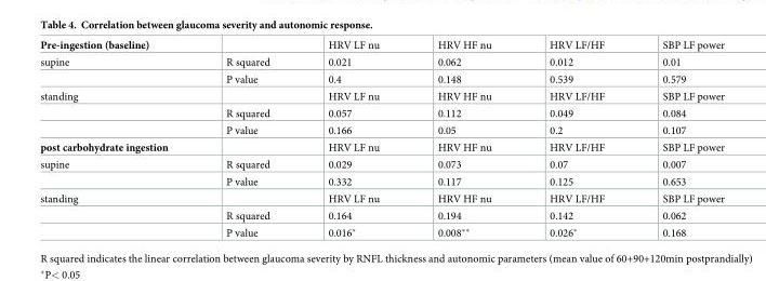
<table><tbody><tr><td>Pre-ingestion (baseline)</td><td></td><td>HRV LF nu</td><td>HRV HF nu</td><td>HRV LF/HF</td><td>SBP LF power</td></tr><tr><td rowspan="2">supine</td><td>R squared</td><td>0.021</td><td>0.062</td><td>0.012</td><td>0.01</td></tr><tr><td>P value</td><td>0.4</td><td>0.148</td><td>0.539</td><td>0.579</td></tr><tr><td rowspan="3">standing</td><td></td><td>HRV LF nu</td><td>HRV HF nu</td><td>HRV LF/HF</td><td>SBP LF power</td></tr><tr><td>R squared</td><td>0.057</td><td>0.112</td><td>0.049</td><td>0.084</td></tr><tr><td>P value</td><td>0.166</td><td>0.05</td><td>0.2</td><td>0.107</td></tr><tr><td>post carbohydrate ingestion</td><td></td><td>HRV LF nu</td><td>HRV HF nu</td><td>HRV LF/HF</td><td>SBP LF power</td></tr><tr><td rowspan="2">supine</td><td>R squared</td><td>0.029</td><td>0.073</td><td>0.07</td><td>0.007</td></tr><tr><td>P value</td><td>0.332</td><td>0.117</td><td>0.125</td><td>0.653</td></tr><tr><td rowspan="3">standing</td><td></td><td>HRV LF nu</td><td>HRV HF nu</td><td>HRV LF/HF</td><td>SBP LF power</td></tr><tr><td>R squared</td><td>0.164</td><td>0.194</td><td>0.142</td><td>0.062</td></tr><tr><td>P value</td><td>0.016*</td><td>0.008**</td><td>0.026*</td><td>0.168</td></tr></tbody></table>